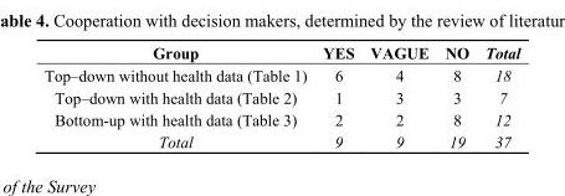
<table><thead><tr><td>Group</td><td>YES</td><td>VAGUE</td><td>NO</td><td>Total</td></tr></thead><tbody><tr><td>Top–down without health data (Table 1)</td><td>6</td><td>4</td><td>8</td><td>18</td></tr><tr><td>Top–down with health data (Table 2)</td><td>1</td><td>3</td><td>3</td><td>7</td></tr><tr><td>Bottom-up with health data (Table 3)</td><td>2</td><td>2</td><td>8</td><td>12</td></tr><tr><td>Total</td><td>9</td><td>9</td><td>19</td><td>37</td></tr></tbody></table>